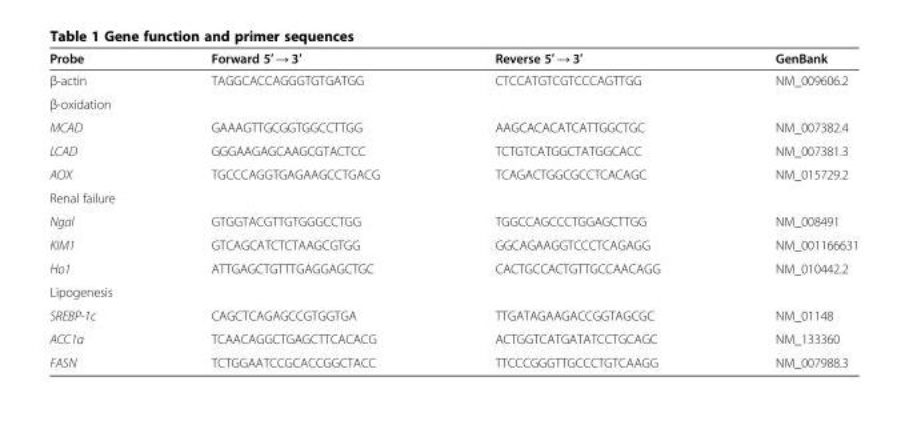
<table><thead><tr><td>Probe</td><td>Forward 5′ → 3′</td><td>Reverse 5′ → 3′</td><td>GenBank</td></tr></thead><tbody><tr><td>β-actin</td><td>TAGGCACCAGGGTGTGATGG</td><td>CTCCATGTCGTCCCAGTTGG</td><td>NM_009606.2</td></tr><tr><td colspan="4">β-oxidation</td></tr><tr><td>MCAD</td><td>GAAAGTTGCGGTGGCCTTGG</td><td>AAGCACACATCATTGGCTGC</td><td>NM_007382.4</td></tr><tr><td>LCAD</td><td>GGGAAGAGCAAGCGTACTCC</td><td>TCTGTCATGGCTATGGCACC</td><td>NM_007381.3</td></tr><tr><td>AOX</td><td>TGCCCAGGTGAGAAGCCTGACG</td><td>TCAGACTGGCGCCTCACAGC</td><td>NM_015729.2</td></tr><tr><td colspan="4">Renal failure</td></tr><tr><td>Ngal</td><td>GTGGTACGTTGTGGGCCTGG</td><td>TGGCCAGCCCTGGAGCTTGG</td><td>NM_008491</td></tr><tr><td>KIM1</td><td>GTCAGCATCTCTAAGCGTGG</td><td>GGCAGAAGGTCCCTCAGAGG</td><td>NM_001166631</td></tr><tr><td>Ho1</td><td>ATTGAGCTGTTTGAGGAGCTGC</td><td>CACTGCCACTGTTGCCAACAGG</td><td>NM_010442.2</td></tr><tr><td colspan="4">Lipogenesis</td></tr><tr><td>SREBP-1c</td><td>CAGCTCAGAGCCGTGGTGA</td><td>TTGATAGAAGACCGGTAGCGC</td><td>NM_01148</td></tr><tr><td>ACC1α</td><td>TCAACAGGCTGAGCTTCACACG</td><td>ACTGGTCATGATATCCTGCAGC</td><td>NM_133360</td></tr><tr><td>FASN</td><td>TCTGGAATCCGCACCGGCTACC</td><td>TTCCCGGGTTGCCCTGTCAAGG</td><td>NM_007988.3</td></tr></tbody></table>